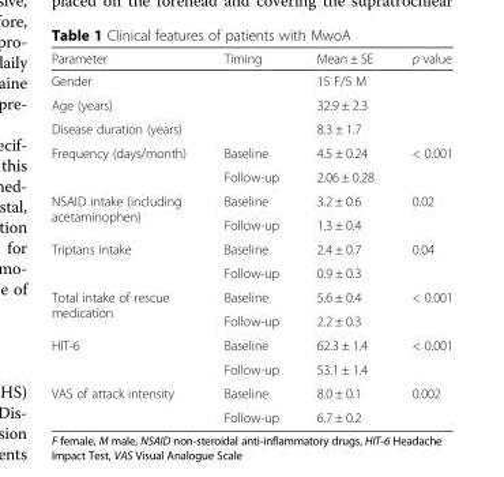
<table><thead><tr><td>Parameter</td><td>Timing</td><td>Mean ± SE</td><td>p value</td></tr></thead><tbody><tr><td>Gender</td><td></td><td>15 F/5 M</td><td></td></tr><tr><td>Age (years)</td><td></td><td>32.9 ± 2.3</td><td></td></tr><tr><td>Disease duration (years)</td><td></td><td>8.3 ± 1.7</td><td></td></tr><tr><td rowspan="2">Frequency (days/month)</td><td>Baseline</td><td>4.5 ± 0.24</td><td rowspan="2">&lt; 0.001</td></tr><tr><td>Follow-up</td><td>2.06 ± 0.28</td></tr><tr><td rowspan="2">NSAID intake (including acetaminophen)</td><td>Baseline</td><td>3.2 ± 0.6</td><td rowspan="2">0.02</td></tr><tr><td>Follow-up</td><td>1.3 ± 0.4</td></tr><tr><td rowspan="2">Triptans intake</td><td>Baseline</td><td>2.4 ± 0.7</td><td rowspan="2">0.04</td></tr><tr><td>Follow-up</td><td>0.9 ± 0.3</td></tr><tr><td rowspan="2">Total intake of rescue medication</td><td>Baseline</td><td>5.6 ± 0.4</td><td rowspan="2">&lt; 0.001</td></tr><tr><td>Follow-up</td><td>2.2 ± 0.3</td></tr><tr><td rowspan="2">HIT-6</td><td>Baseline</td><td>62.3 ± 1.4</td><td rowspan="2">&lt; 0.001</td></tr><tr><td>Follow-up</td><td>53.1 ± 1.4</td></tr><tr><td rowspan="2">VAS of attack intensity</td><td>Baseline</td><td>8.0 ± 0.1</td><td rowspan="2">0.002</td></tr><tr><td>Follow-up</td><td>6.7 ± 0.2</td></tr></tbody></table>